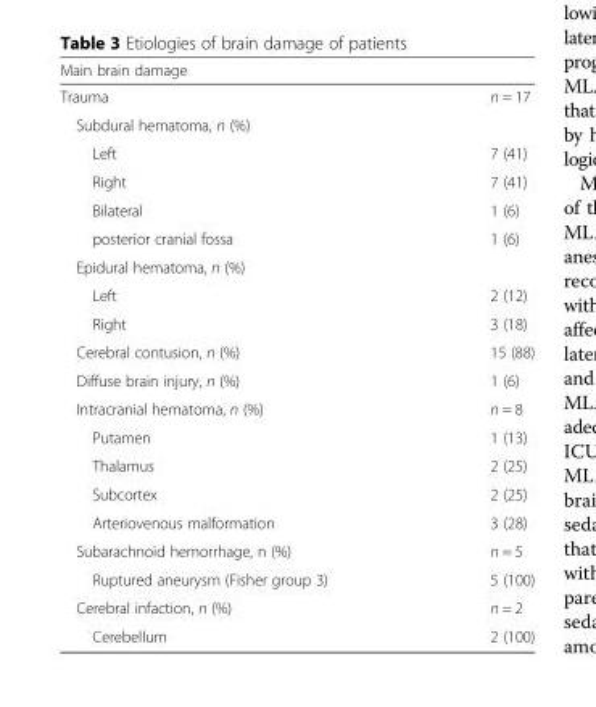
<table><thead><tr><td>Main brain damage</td><td></td></tr></thead><tbody><tr><td>Trauma</td><td>n = 17</td></tr><tr><td colspan="2">Subdural hematoma, n (%)</td></tr><tr><td>Left</td><td>7 (41)</td></tr><tr><td>Right</td><td>7 (41)</td></tr><tr><td>Bilateral</td><td>1 (6)</td></tr><tr><td>posterior cranial fossa</td><td>1 (6)</td></tr><tr><td colspan="2">Epidural hematoma, n (%)</td></tr><tr><td>Left</td><td>2 (12)</td></tr><tr><td>Right</td><td>3 (18)</td></tr><tr><td>Cerebral contusion, n (%)</td><td>15 (88)</td></tr><tr><td>Diffuse brain injury, n (%)</td><td>1 (6)</td></tr><tr><td>Intracranial hematoma, n (%)</td><td>n = 8</td></tr><tr><td>Putamen</td><td>1 (13)</td></tr><tr><td>Thalamus</td><td>2 (25)</td></tr><tr><td>Subcortex</td><td>2 (25)</td></tr><tr><td>Arteriovenous malformation</td><td>3 (28)</td></tr><tr><td>Subarachnoid hemorrhage, n (%)</td><td>n = 5</td></tr><tr><td>Ruptured aneurysm (Fisher group 3)</td><td>5 (100)</td></tr><tr><td>Cerebral infaction, n (%)</td><td>n = 2</td></tr><tr><td>Cerebellum</td><td>2 (100)</td></tr></tbody></table>